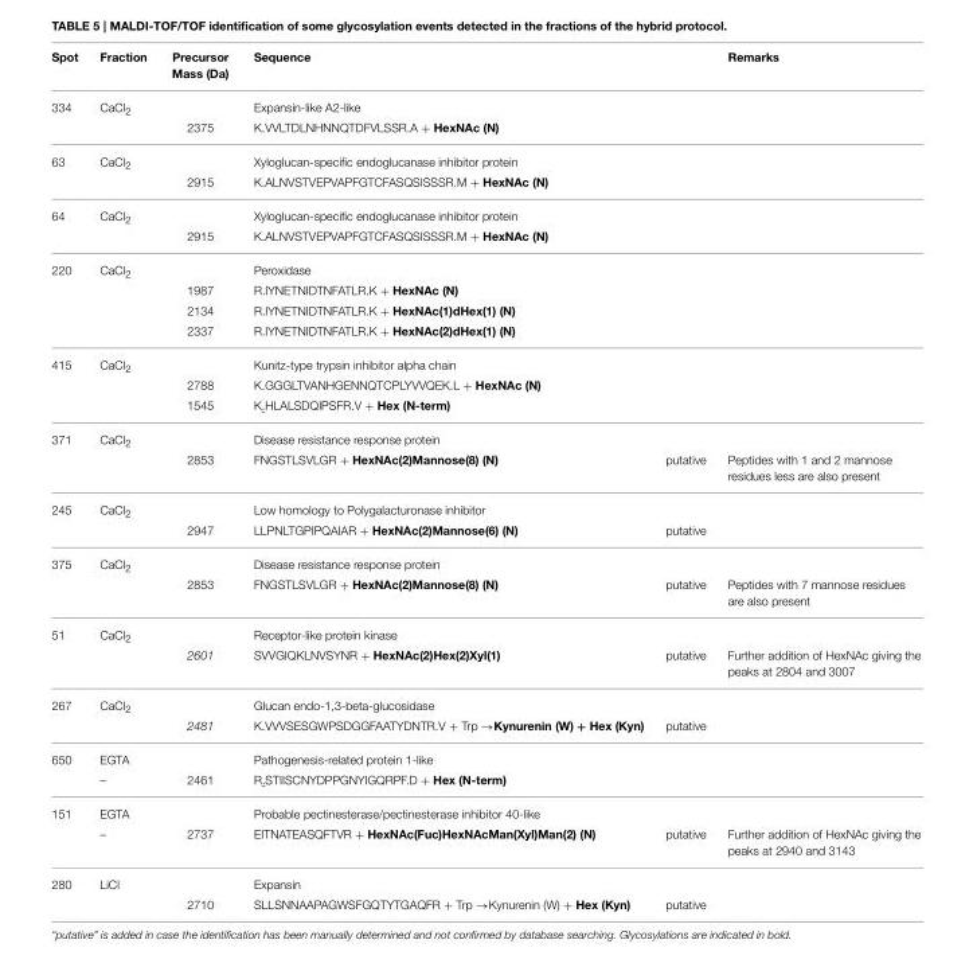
<table><thead><tr><td>Spot</td><td>Fraction</td><td>Precursor Mass (Da)</td><td>Sequence</td><td></td><td>Remarks</td></tr></thead><tbody><tr><td rowspan="2">334</td><td>CaCl<sub>2</sub></td><td></td><td>Expansin-like A2-like</td><td></td><td></td></tr><tr><td></td><td>2375</td><td>K.VVLTDLNHNNQTDFVLSSR.A + HexNAc (N)</td><td></td><td></td></tr><tr><td rowspan="2">63</td><td>CaCl<sub>2</sub></td><td></td><td>Xyloglucan-specific endoglucanase inhibitor protein</td><td></td><td></td></tr><tr><td></td><td>2915</td><td>K.ALNVSTVEPVAPFGTCFASQSISSSR.M + HexNAc (N)</td><td></td><td></td></tr><tr><td rowspan="2">64</td><td>CaCl<sub>2</sub></td><td></td><td>Xyloglucan-specific endoglucanase inhibitor protein</td><td></td><td></td></tr><tr><td></td><td>2915</td><td>K.ALNVSTVEPVAPFGTCFASQSISSSR.M + HexNAc (N)</td><td></td><td></td></tr><tr><td rowspan="4">220</td><td>CaCl<sub>2</sub></td><td></td><td>Peroxidase</td><td></td><td></td></tr><tr><td></td><td>1987</td><td>R.IYNETNIDTNFATLR.K + HexNAc (N)</td><td></td><td></td></tr><tr><td></td><td>2134</td><td>R.IYNETNIDTNFATLR.K + HexNAc(1)dHex(1) (N)</td><td></td><td></td></tr><tr><td></td><td>2337</td><td>R.IYNETNIDTNFATLR.K + HexNAc(2)dHex(1) (N)</td><td></td><td></td></tr><tr><td rowspan="3">415</td><td>CaCl<sub>2</sub></td><td></td><td>Kunitz-type trypsin inhibitor alpha chain</td><td></td><td></td></tr><tr><td></td><td>2788</td><td>K.GGGLTVANHGENNQTCPLYVVQEK.L + HexNAc (N)</td><td></td><td></td></tr><tr><td></td><td>1545</td><td>K.HLALSDQIPSFR.V + Hex (N-term)</td><td></td><td></td></tr><tr><td rowspan="2">371</td><td>CaCl<sub>2</sub></td><td></td><td>Disease resistance response protein</td><td></td><td></td></tr><tr><td></td><td>2853</td><td>FNGSTLSVLGR + HexNAc(2)Mannose(8) (N)</td><td>putative</td><td>Peptides with 1 and 2 mannose residues less are also present</td></tr><tr><td rowspan="2">245</td><td>CaCl<sub>2</sub></td><td></td><td>Low homology to Polygalacturonase inhibitor</td><td></td><td></td></tr><tr><td></td><td>2947</td><td>LLPNLTGPIPQAIAR + HexNAc(2)Mannose(6) (N)</td><td>putative</td><td></td></tr><tr><td rowspan="2">375</td><td>CaCl<sub>2</sub></td><td></td><td>Disease resistance response protein</td><td></td><td></td></tr><tr><td></td><td>2853</td><td>FNGSTLSVLGR + HexNAc(2)Mannose(8) (N)</td><td>putative</td><td>Peptides with 7 mannose residues are also present</td></tr><tr><td rowspan="2">51</td><td>CaCl<sub>2</sub></td><td></td><td>Receptor-like protein kinase</td><td></td><td></td></tr><tr><td></td><td>2601</td><td>SVVGIQKLNVSYNR + HexNAc(2)Hex(2)Xyl(1)</td><td>putative</td><td>Further addition of HexNAc giving the peaks at 2804 and 3007</td></tr><tr><td rowspan="2">267</td><td>CaCl<sub>2</sub></td><td></td><td>Glucan endo-1,3-beta-glucosidase</td><td></td><td></td></tr><tr><td></td><td>2481</td><td>K.VVVSESGWPSDGGFAATYDNTR.V + Trp →Kynurenin (W) + Hex (Kyn)</td><td>putative</td><td></td></tr><tr><td rowspan="2">650</td><td>EGTA</td><td></td><td>Pathogenesis-related protein 1-like</td><td></td><td></td></tr><tr><td>–</td><td>2461</td><td>R.STIISCNYDPPGNYIGQRPF.D + Hex (N-term)</td><td></td><td></td></tr><tr><td rowspan="2">151</td><td>EGTA</td><td></td><td>Probable pectinesterase/pectinesterase inhibitor 40-like</td><td></td><td></td></tr><tr><td>–</td><td>2737</td><td>EITNATEASQFTVR + HexNAc(Fuc)HexNAcMan(Xyl)Man(2) (N)</td><td>putative</td><td>Further addition of HexNAc giving the peaks at 2940 and 3143</td></tr><tr><td rowspan="2">280</td><td>LiCl</td><td></td><td>Expansin</td><td></td><td></td></tr><tr><td></td><td>2710</td><td>SLLSNNAAPAGWSFGQTYTGAQFR + Trp →Kynurenin (W) + Hex (Kyn)</td><td>putative</td><td></td></tr></tbody></table>